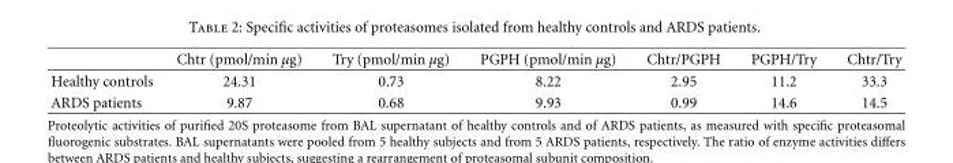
<table><thead><tr><td></td><td>Chtr (pmol/min μg)</td><td>Try (pmol/min μg)</td><td>PGPH (pmol/min μg)</td><td>Chtr/PGPH</td><td>PGPH/Try</td><td>Chtr/Try</td></tr></thead><tbody><tr><td>Healthy controls</td><td>24.31</td><td>0.73</td><td>8.22</td><td>2.95</td><td>11.2</td><td>33.3</td></tr><tr><td>ARDS patients</td><td>9.87</td><td>0.68</td><td>9.93</td><td>0.99</td><td>14.6</td><td>14.5</td></tr></tbody></table>